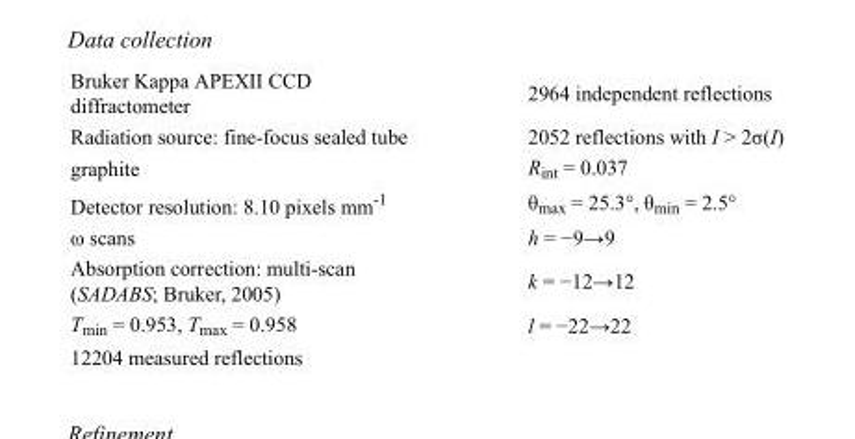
<table><tbody><tr><td>Bruker Kappa APEXII CCD diffractometer</td><td>2964 independent reflections</td></tr><tr><td>Radiation source: fine-focus sealed tube</td><td>2052 reflections with I &gt; 2σ(I)</td></tr><tr><td>graphite</td><td>R<sub>int</sub> = 0.037</td></tr><tr><td>Detector resolution: 8.10 pixels mm<sup>-1</sup></td><td>θ<sub>max</sub> = 25.3°, θ<sub>min</sub> = 2.5°</td></tr><tr><td>ω scans</td><td>h = −9→9</td></tr><tr><td>Absorption correction: multi-scan (SADABS; Bruker, 2005)</td><td>k = −12→12</td></tr><tr><td>T<sub>min</sub> = 0.953, T<sub>max</sub> = 0.958</td><td>l = −22→22</td></tr><tr><td>12204 measured reflections</td><td></td></tr></tbody></table>